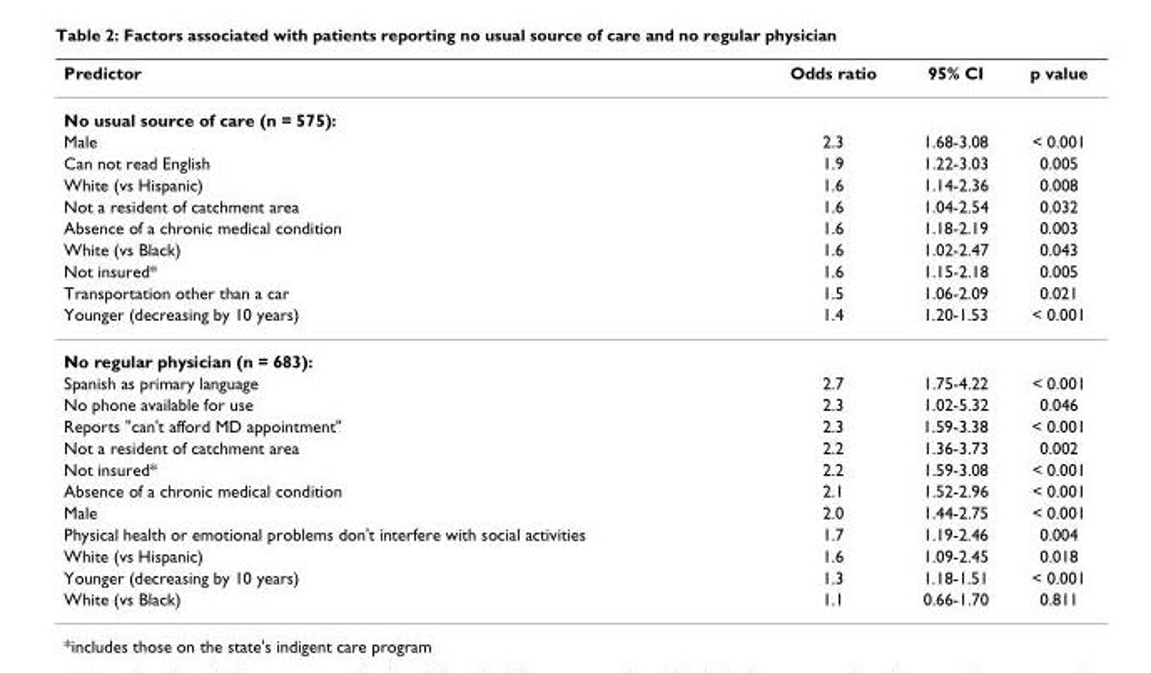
<table><thead><tr><td>Predictor</td><td>Odds ratio</td><td>95% CI</td><td>p value</td></tr></thead><tbody><tr><td colspan="4">No usual source of care (n = 575):</td></tr><tr><td>Male</td><td>2.3</td><td>1.68-3.08</td><td>&lt; 0.001</td></tr><tr><td>Can not read English</td><td>1.9</td><td>1.22-3.03</td><td>0.005</td></tr><tr><td>White (vs Hispanic)</td><td>1.6</td><td>1.14-2.36</td><td>0.008</td></tr><tr><td>Not a resident of catchment area</td><td>1.6</td><td>1.04-2.54</td><td>0.032</td></tr><tr><td>Absence of a chronic medical condition</td><td>1.6</td><td>1.18-2.19</td><td>0.003</td></tr><tr><td>White (vs Black)</td><td>1.6</td><td>1.02-2.47</td><td>0.043</td></tr><tr><td>Not insured*</td><td>1.6</td><td>1.15-2.18</td><td>0.005</td></tr><tr><td>Transportation other than a car</td><td>1.5</td><td>1.06-2.09</td><td>0.021</td></tr><tr><td>Younger (decreasing by 10 years)</td><td>1.4</td><td>1.20-1.53</td><td>&lt; 0.001</td></tr><tr><td colspan="4">No regular physician (n = 683):</td></tr><tr><td>Spanish as primary language</td><td>2.7</td><td>1.75-4.22</td><td>&lt; 0.001</td></tr><tr><td>No phone available for use</td><td>2.3</td><td>1.02-5.32</td><td>0.046</td></tr><tr><td>Reports &quot;can&#x27;t afford MD appointment&quot;</td><td>2.3</td><td>1.59-3.38</td><td>&lt; 0.001</td></tr><tr><td>Not a resident of catchment area</td><td>2.2</td><td>1.36-3.73</td><td>0.002</td></tr><tr><td>Not insured*</td><td>2.2</td><td>1.59-3.08</td><td>&lt; 0.001</td></tr><tr><td>Absence of a chronic medical condition</td><td>2.1</td><td>1.52-2.96</td><td>&lt; 0.001</td></tr><tr><td>Male</td><td>2.0</td><td>1.44-2.75</td><td>&lt; 0.001</td></tr><tr><td>Physical health or emotional problems don&#x27;t interfere with social activities</td><td>1.7</td><td>1.19-2.46</td><td>0.004</td></tr><tr><td>White (vs Hispanic)</td><td>1.6</td><td>1.09-2.45</td><td>0.018</td></tr><tr><td>Younger (decreasing by 10 years)</td><td>1.3</td><td>1.18-1.51</td><td>&lt; 0.001</td></tr><tr><td>White (vs Black)</td><td>1.1</td><td>0.66-1.70</td><td>0.811</td></tr></tbody></table>